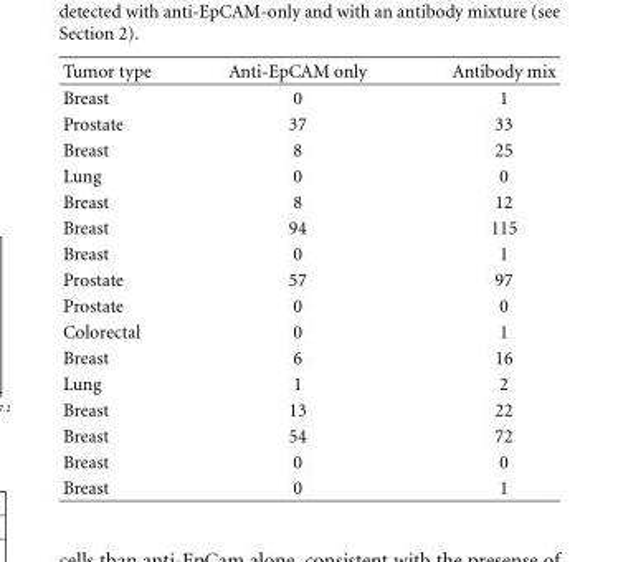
<table><thead><tr><td>Tumor type</td><td>Anti-EpCAM only</td><td>Antibody mix</td></tr></thead><tbody><tr><td>Breast</td><td>0</td><td>1</td></tr><tr><td>Prostate</td><td>37</td><td>33</td></tr><tr><td>Breast</td><td>8</td><td>25</td></tr><tr><td>Lung</td><td>0</td><td>0</td></tr><tr><td>Breast</td><td>8</td><td>12</td></tr><tr><td>Breast</td><td>94</td><td>115</td></tr><tr><td>Breast</td><td>0</td><td>1</td></tr><tr><td>Prostate</td><td>57</td><td>97</td></tr><tr><td>Prostate</td><td>0</td><td>0</td></tr><tr><td>Colorectal</td><td>0</td><td>1</td></tr><tr><td>Breast</td><td>6</td><td>16</td></tr><tr><td>Lung</td><td>1</td><td>2</td></tr><tr><td>Breast</td><td>13</td><td>22</td></tr><tr><td>Breast</td><td>54</td><td>72</td></tr><tr><td>Breast</td><td>0</td><td>0</td></tr><tr><td>Breast</td><td>0</td><td>1</td></tr></tbody></table>